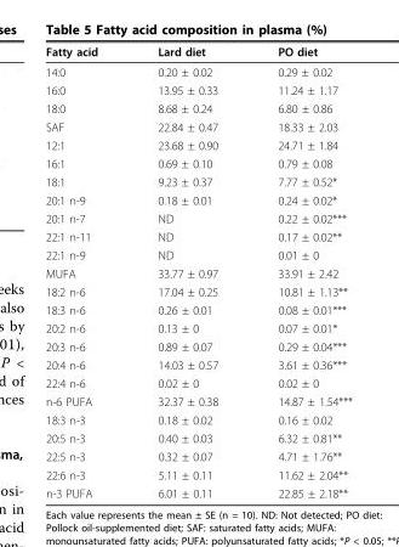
<table><tbody><tr><td>Fatty acid</td><td>Lard diet</td><td>PO diet</td></tr><tr><td>14:0</td><td>0.20 ± 0.02</td><td>0.29 ± 0.02</td></tr><tr><td>16:0</td><td>13.95 ± 0.33</td><td>11.24 ± 1.17</td></tr><tr><td>18:0</td><td>8.68 ± 0.24</td><td>6.80 ± 0.86</td></tr><tr><td>SAF</td><td>22.84 ± 0.47</td><td>18.33 ± 2.03</td></tr><tr><td>12:1</td><td>23.68 ± 0.90</td><td>24.71 ± 1.84</td></tr><tr><td>16:1</td><td>0.69 ± 0.10</td><td>0.79 ± 0.08</td></tr><tr><td>18:1</td><td>9.23 ± 0.37</td><td>7.77 ± 0.52*</td></tr><tr><td>20:1 n-9</td><td>0.18 ± 0.01</td><td>0.24 ± 0.02*</td></tr><tr><td>20:1 n-7</td><td>ND</td><td>0.22 ± 0.02***</td></tr><tr><td>22:1 n-11</td><td>ND</td><td>0.17 ± 0.02**</td></tr><tr><td>22:1 n-9</td><td>ND</td><td>0.01 ± 0</td></tr><tr><td>MUFA</td><td>33.77 ± 0.97</td><td>33.91 ± 2.42</td></tr><tr><td>18:2 n-6</td><td>17.04 ± 0.25</td><td>10.81 ± 1.13**</td></tr><tr><td>18:3 n-6</td><td>0.26 ± 0.01</td><td>0.08 ± 0.01***</td></tr><tr><td>20:2 n-6</td><td>0.13 ± 0</td><td>0.07 ± 0.01*</td></tr><tr><td>20:3 n-6</td><td>0.89 ± 0.07</td><td>0.29 ± 0.04***</td></tr><tr><td>20:4 n-6</td><td>14.03 ± 0.57</td><td>3.61 ± 0.36***</td></tr><tr><td>22:4 n-6</td><td>0.02 ± 0</td><td>0.02 ± 0</td></tr><tr><td>n-6 PUFA</td><td>32.37 ± 0.38</td><td>14.87 ± 1.54***</td></tr><tr><td>18:3 n-3</td><td>0.18 ± 0.02</td><td>0.16 ± 0.02</td></tr><tr><td>20:5 n-3</td><td>0.40 ± 0.03</td><td>6.32 ± 0.81**</td></tr><tr><td>22:5 n-3</td><td>0.32 ± 0.07</td><td>4.71 ± 1.76**</td></tr><tr><td>22:6 n-3</td><td>5.11 ± 0.11</td><td>11.62 ± 2.04**</td></tr><tr><td>n-3 PUFA</td><td>6.01 ± 0.11</td><td>22.85 ± 2.18**</td></tr></tbody></table>